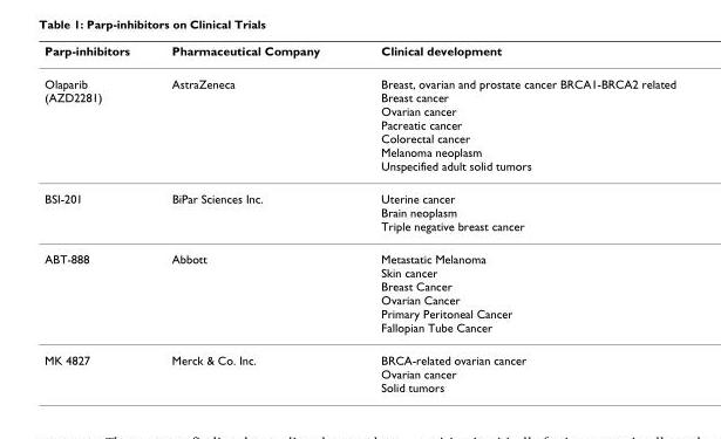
<table><thead><tr><td>Parp-inhibitors</td><td>Pharmaceutical Company</td><td>Clinical development</td></tr></thead><tbody><tr><td>Olaparib (AZD2281)</td><td>AstraZeneca</td><td>Breast, ovarian and prostate cancer BRCA1-BRCA2 related Breast cancer Ovarian cancer Pacreatic cancer Colorectal cancer Melanoma neoplasm Unspecified adult solid tumors</td></tr><tr><td>BSI-201</td><td>BiPar Sciences Inc.</td><td>Uterine cancer Brain neoplasm Triple negative breast cancer</td></tr><tr><td>ABT-888</td><td>Abbott</td><td>Metastatic Melanoma Skin cancer Breast Cancer Ovarian Cancer Primary Peritoneal Cancer Fallopian Tube Cancer</td></tr><tr><td>MK 4827</td><td>Merck &amp; Co. Inc.</td><td>BRCA-related ovarian cancer Ovarian cancer Solid tumors</td></tr></tbody></table>